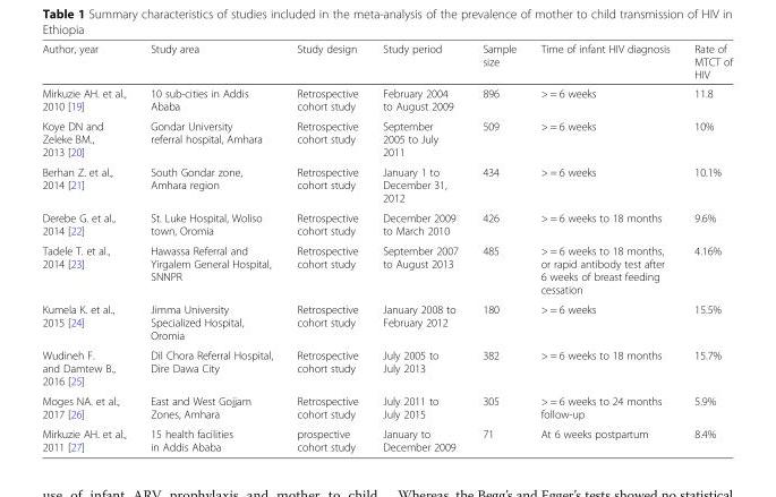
<table><thead><tr><td>Author, year</td><td>Study area</td><td>Study design</td><td>Study period</td><td>Sample size</td><td>Time of infant HIV diagnosis</td><td>Rate of MTCT of HIV</td></tr></thead><tbody><tr><td>Mirkuzie AH. et al., 2010 [19]</td><td>10 sub-cities in Addis Ababa</td><td>Retrospective cohort study</td><td>February 2004 to August 2009</td><td>896</td><td>&gt; = 6 weeks</td><td>11.8</td></tr><tr><td>Koye DN and Zeleke BM., 2013 [20]</td><td>Gondar University referral hospital, Amhara</td><td>Retrospective cohort study</td><td>September 2005 to July 2011</td><td>509</td><td>&gt; = 6 weeks</td><td>10%</td></tr><tr><td>Berhan Z. et al., 2014 [21]</td><td>South Gondar zone, Amhara region</td><td>Retrospective cohort study</td><td>January 1 to December 31, 2012</td><td>434</td><td>&gt; = 6 weeks</td><td>10.1%</td></tr><tr><td>Derebe G. et al., 2014 [22]</td><td>St. Luke Hospital, Woliso town, Oromia</td><td>Retrospective cohort study</td><td>December 2009 to March 2010</td><td>426</td><td>&gt; = 6 weeks to 18 months</td><td>9.6%</td></tr><tr><td>Tadele T. et al., 2014 [23]</td><td>Hawassa Referral and Yirgalem General Hospital, SNNPR</td><td>Retrospective cohort study</td><td>September 2007 to August 2013</td><td>485</td><td>&gt; = 6 weeks to 18 months, or rapid antibody test after 6 weeks of breast feeding cessation</td><td>4.16%</td></tr><tr><td>Kumela K. et al., 2015 [24]</td><td>Jimma University Specialized Hospital, Oromia</td><td>Retrospective cohort study</td><td>January 2008 to February 2012</td><td>180</td><td>&gt; = 6 weeks</td><td>15.5%</td></tr><tr><td>Wudineh F. and Damtew B., 2016 [25]</td><td>Dil Chora Referral Hospital, Dire Dawa City</td><td>Retrospective cohort study</td><td>July 2005 to July 2013</td><td>382</td><td>&gt; = 6 weeks to 18 months</td><td>15.7%</td></tr><tr><td>Moges NA. et al., 2017 [26]</td><td>East and West Gojjam Zones, Amhara</td><td>Retrospective cohort study</td><td>July 2011 to July 2015</td><td>305</td><td>&gt; = 6 weeks to 24 months follow-up</td><td>5.9%</td></tr><tr><td>Mirkuzie AH. et al., 2011 [27]</td><td>15 health facilities in Addis Ababa</td><td>prospective cohort study</td><td>January to December 2009</td><td>71</td><td>At 6 weeks postpartum</td><td>8.4%</td></tr></tbody></table>